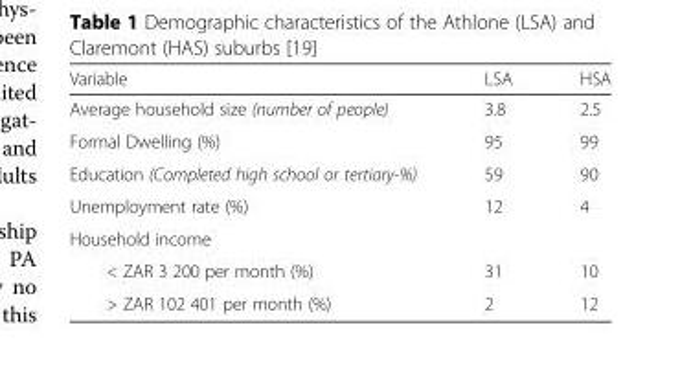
<table><thead><tr><td>Variable</td><td>LSA</td><td>HSA</td></tr></thead><tbody><tr><td>Average household size (number of people)</td><td>3.8</td><td>2.5</td></tr><tr><td>Formal Dwelling (%)</td><td>95</td><td>99</td></tr><tr><td>Education (Completed high school or tertiary-%)</td><td>59</td><td>90</td></tr><tr><td>Unemployment rate (%)</td><td>12</td><td>4</td></tr><tr><td colspan="3">Household income</td></tr><tr><td>&lt; ZAR 3 200 per month (%)</td><td>31</td><td>10</td></tr><tr><td>&gt; ZAR 102 401 per month (%)</td><td>2</td><td>12</td></tr></tbody></table>